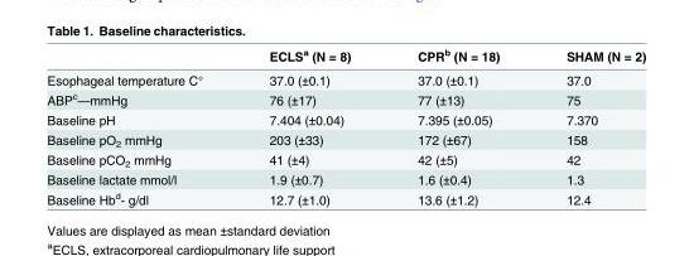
<table><thead><tr><td></td><td>ECLS<sup>a</sup> (N = 8)</td><td>CPR<sup>b</sup> (N = 18)</td><td>SHAM (N = 2)</td></tr></thead><tbody><tr><td>Esophageal temperature C°</td><td>37.0 (±0.1)</td><td>37.0 (±0.1)</td><td>37.0</td></tr><tr><td>ABP<sup>c</sup>—mmHg</td><td>76 (±17)</td><td>77 (±13)</td><td>75</td></tr><tr><td>Baseline pH</td><td>7.404 (±0.04)</td><td>7.395 (±0.05)</td><td>7.370</td></tr><tr><td>Baseline pO<sub>2</sub> mmHg</td><td>203 (±33)</td><td>172 (±67)</td><td>158</td></tr><tr><td>Baseline pCO<sub>2</sub> mmHg</td><td>41 (±4)</td><td>42 (±5)</td><td>42</td></tr><tr><td>Baseline lactate mmol/l</td><td>1.9 (±0.7)</td><td>1.6 (±0.4)</td><td>1.3</td></tr><tr><td>Baseline Hb<sup>d</sup>- g/dl</td><td>12.7 (±1.0)</td><td>13.6 (±1.2)</td><td>12.4</td></tr></tbody></table>